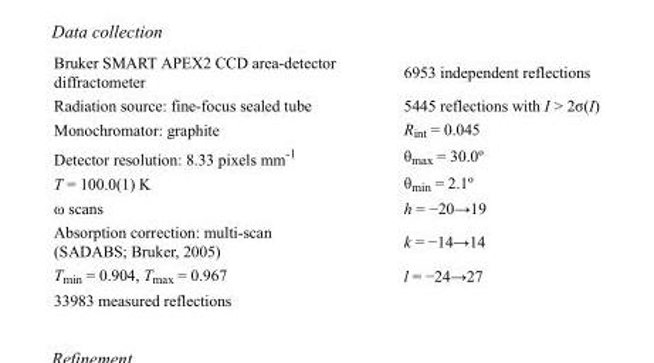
<table><tbody><tr><td>Bruker SMART APEX2 CCD area-detector diffractometer</td><td>6953 independent reflections</td></tr><tr><td>Radiation source: fine-focus sealed tube</td><td>5445 reflections with I &gt; 2σ(I)</td></tr><tr><td>Monochromator: graphite</td><td>R<sub>int</sub> = 0.045</td></tr><tr><td>Detector resolution: 8.33 pixels mm<sup>-1</sup></td><td>θ<sub>max</sub> = 30.0º</td></tr><tr><td>T = 100.0(1) K</td><td>θ<sub>min</sub> = 2.1º</td></tr><tr><td>ω scans</td><td>h = −20→19</td></tr><tr><td>Absorption correction: multi-scan (SADABS; Bruker, 2005)</td><td>k = −14→14</td></tr><tr><td>T<sub>min</sub> = 0.904, T<sub>max</sub> = 0.967</td><td>l = −24→27</td></tr><tr><td>33983 measured reflections</td><td></td></tr></tbody></table>